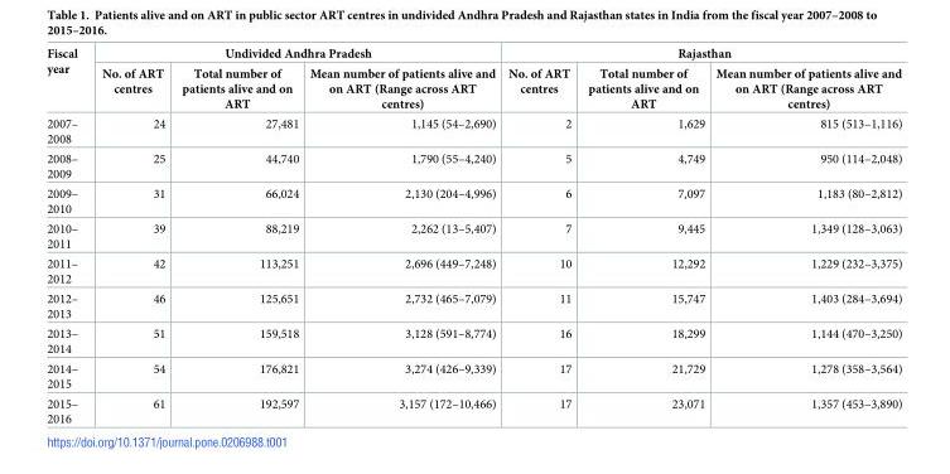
<table><thead><tr><td rowspan="2">Fiscal year</td><td colspan="3">Undivided Andhra Pradesh</td><td colspan="3">Rajasthan</td></tr><tr><td>No. of ART centres</td><td>Total number of patients alive and on ART</td><td>Mean number of patients alive and on ART (Range across ART centres)</td><td>No. of ART centres</td><td>Total number of patients alive and on ART</td><td>Mean number of patients alive and on ART (Range across ART centres)</td></tr></thead><tbody><tr><td>2007– 2008</td><td>24</td><td>27,481</td><td>1,145 (54–2,690)</td><td>2</td><td>1,629</td><td>815 (513–1,116)</td></tr><tr><td>2008– 2009</td><td>25</td><td>44,740</td><td>1,790 (55–4,240)</td><td>5</td><td>4,749</td><td>950 (114–2,048)</td></tr><tr><td>2009– 2010</td><td>31</td><td>66,024</td><td>2,130 (204–4,996)</td><td>6</td><td>7,097</td><td>1,183 (80–2,812)</td></tr><tr><td>2010– 2011</td><td>39</td><td>88,219</td><td>2,262 (13–5,407)</td><td>7</td><td>9,445</td><td>1,349 (128–3,063)</td></tr><tr><td>2011– 2012</td><td>42</td><td>113,251</td><td>2,696 (449–7,248)</td><td>10</td><td>12,292</td><td>1,229 (232–3,375)</td></tr><tr><td>2012– 2013</td><td>46</td><td>125,651</td><td>2,732 (465–7,079)</td><td>11</td><td>15,747</td><td>1,403 (284–3,694)</td></tr><tr><td>2013– 2014</td><td>51</td><td>159,518</td><td>3,128 (591–8,774)</td><td>16</td><td>18,299</td><td>1,144 (470–3,250)</td></tr><tr><td>2014– 2015</td><td>54</td><td>176,821</td><td>3,274 (426–9,339)</td><td>17</td><td>21,729</td><td>1,278 (358–3,564)</td></tr><tr><td>2015– 2016</td><td>61</td><td>192,597</td><td>3,157 (172–10,466)</td><td>17</td><td>23,071</td><td>1,357 (453–3,890)</td></tr></tbody></table>